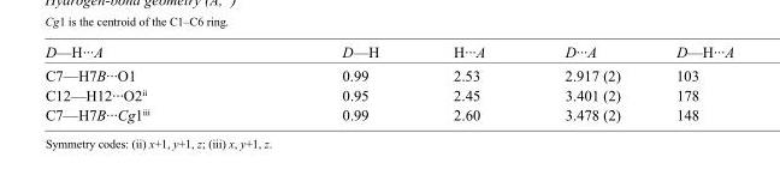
<table><tbody><tr><td>D—H···A</td><td>D—H</td><td>H···A</td><td>D···A</td><td>D—H···A</td></tr><tr><td>C7—H7B···O1</td><td>0.99</td><td>2.53</td><td>2.917 (2)</td><td>103</td></tr><tr><td>C12—H12···O2<sup>ii</sup></td><td>0.95</td><td>2.45</td><td>3.401 (2)</td><td>178</td></tr><tr><td>C7—H7B···Cg1<sup>iii</sup></td><td>0.99</td><td>2.60</td><td>3.478 (2)</td><td>148</td></tr></tbody></table>